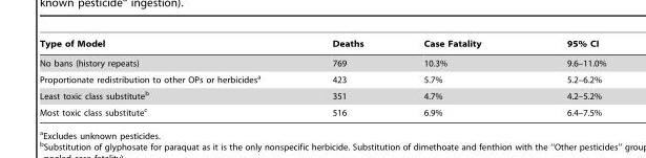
<table><thead><tr><td>Type of Model</td><td>Deaths</td><td>Case Fatality</td><td>95% CI</td></tr></thead><tbody><tr><td>No bans (history repeats)</td><td>769</td><td>10.3%</td><td>9.6–11.0%</td></tr><tr><td>Proportionate redistribution to other OPs or herbicides<sup>a</sup></td><td>423</td><td>5.7%</td><td>5.2–6.2%</td></tr><tr><td>Least toxic class substitute<sup>b</sup></td><td>351</td><td>4.7%</td><td>4.2–5.2%</td></tr><tr><td>Most toxic class substitute<sup>c</sup></td><td>516</td><td>6.9%</td><td>6.4–7.5%</td></tr></tbody></table>